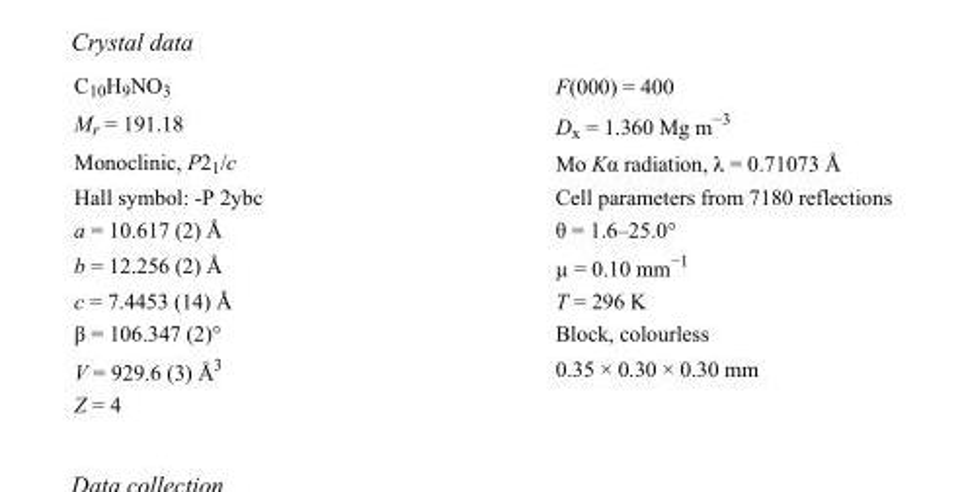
<table><tbody><tr><td>C<sub>10</sub>H<sub>9</sub>NO<sub>3</sub></td><td>F(000) = 400</td></tr><tr><td>M<sub>r</sub> = 191.18</td><td>D<sub>x</sub> = 1.360 Mg m<sup>−3</sup></td></tr><tr><td>Monoclinic, P2<sub>1</sub>/c</td><td>Mo Kα radiation, λ = 0.71073 Å</td></tr><tr><td>Hall symbol: -P 2ybc</td><td>Cell parameters from 7180 reflections</td></tr><tr><td>a = 10.617 (2) Å</td><td>θ = 1.6–25.0°</td></tr><tr><td>b = 12.256 (2) Å</td><td>µ = 0.10 mm<sup>−1</sup></td></tr><tr><td>c = 7.4453 (14) Å</td><td>T = 296 K</td></tr><tr><td>β = 106.347 (2)°</td><td>Block, colourless</td></tr><tr><td>V = 929.6 (3) Å<sup>3</sup></td><td>0.35 × 0.30 × 0.30 mm</td></tr><tr><td>Z = 4</td><td></td></tr></tbody></table>